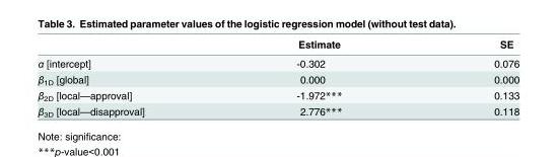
<table><thead><tr><td></td><td>Estimate</td><td>SE</td></tr></thead><tbody><tr><td>α [intercept]</td><td>-0.302</td><td>0.076</td></tr><tr><td>β<sub>1D</sub> [global]</td><td>0.000</td><td>0.000</td></tr><tr><td>β<sub>2D</sub> [local—approval]</td><td>-1.972***</td><td>0.133</td></tr><tr><td>β<sub>3D</sub> [local—disapproval]</td><td>2.776***</td><td>0.118</td></tr></tbody></table>